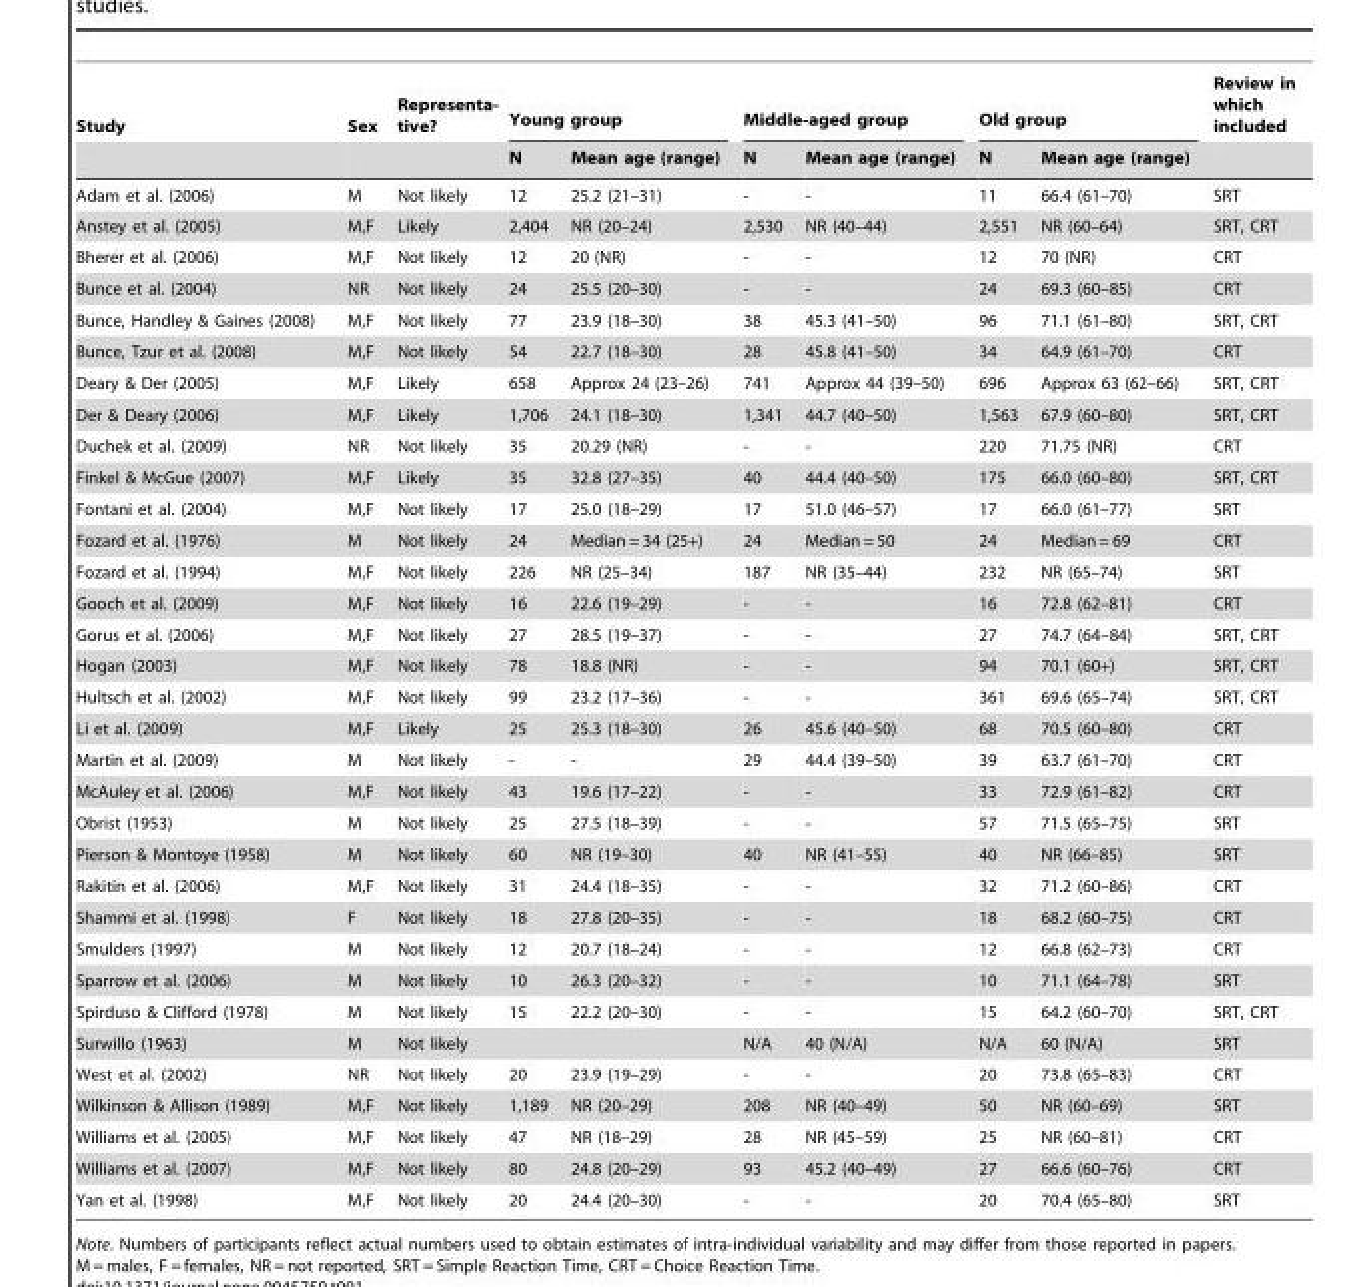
<table><thead><tr><td rowspan="2">Study</td><td rowspan="2">Sex</td><td rowspan="2">Representa- tive?</td><td colspan="2">Young group</td><td colspan="2">Middle-aged group</td><td colspan="2">Old group</td><td rowspan="2">Review in which included</td></tr><tr><td>N</td><td>Mean age (range)</td><td>N</td><td>Mean age (range)</td><td>N</td><td>Mean age (range)</td></tr></thead><tbody><tr><td>Adam et al. (2006)</td><td>M</td><td>Not likely</td><td>12</td><td>25.2 (21–31)</td><td>-</td><td>-</td><td>11</td><td>66.4 (61–70)</td><td>SRT</td></tr><tr><td>Anstey et al. (2005)</td><td>M,F</td><td>Likely</td><td>2,404</td><td>NR (20–24)</td><td>2,530</td><td>NR (40–44)</td><td>2,551</td><td>NR (60–64)</td><td>SRT, CRT</td></tr><tr><td>Bherer et al. (2006)</td><td>M,F</td><td>Not likely</td><td>12</td><td>20 (NR)</td><td>-</td><td>-</td><td>12</td><td>70 (NR)</td><td>CRT</td></tr><tr><td>Bunce et al. (2004)</td><td>NR</td><td>Not likely</td><td>24</td><td>25.5 (20–30)</td><td>-</td><td>-</td><td>24</td><td>69.3 (60–85)</td><td>CRT</td></tr><tr><td>Bunce, Handley &amp; Gaines (2008)</td><td>M,F</td><td>Not likely</td><td>77</td><td>23.9 (18–30)</td><td>38</td><td>45.3 (41–50)</td><td>96</td><td>71.1 (61–80)</td><td>SRT, CRT</td></tr><tr><td>Bunce, Tzur et al. (2008)</td><td>M,F</td><td>Not likely</td><td>54</td><td>22.7 (18–30)</td><td>28</td><td>45.8 (41–50)</td><td>34</td><td>64.9 (61–70)</td><td>CRT</td></tr><tr><td>Deary &amp; Der (2005)</td><td>M,F</td><td>Likely</td><td>658</td><td>Approx 24 (23–26)</td><td>741</td><td>Approx 44 (39–50)</td><td>696</td><td>Approx 63 (62–66)</td><td>SRT, CRT</td></tr><tr><td>Der &amp; Deary (2006)</td><td>M,F</td><td>Likely</td><td>1,706</td><td>24.1 (18–30)</td><td>1,341</td><td>44.7 (40–50)</td><td>1,563</td><td>67.9 (60–80)</td><td>SRT, CRT</td></tr><tr><td>Duchek et al. (2009)</td><td>NR</td><td>Not likely</td><td>35</td><td>20.29 (NR)</td><td>-</td><td>-</td><td>220</td><td>71.75 (NR)</td><td>CRT</td></tr><tr><td>Finkel &amp; McGue (2007)</td><td>M,F</td><td>Likely</td><td>35</td><td>32.8 (27–35)</td><td>40</td><td>44.4 (40–50)</td><td>175</td><td>66.0 (60–80)</td><td>SRT, CRT</td></tr><tr><td>Fontani et al. (2004)</td><td>M,F</td><td>Not likely</td><td>17</td><td>25.0 (18–29)</td><td>17</td><td>51.0 (46–57)</td><td>17</td><td>66.0 (61–77)</td><td>SRT</td></tr><tr><td>Fozard et al. (1976)</td><td>M</td><td>Not likely</td><td>24</td><td>Median = 34 (25+)</td><td>24</td><td>Median = 50</td><td>24</td><td>Median = 69</td><td>CRT</td></tr><tr><td>Fozard et al. (1994)</td><td>M,F</td><td>Not likely</td><td>226</td><td>NR (25–34)</td><td>187</td><td>NR (35–44)</td><td>232</td><td>NR (65–74)</td><td>SRT</td></tr><tr><td>Gooch et al. (2009)</td><td>M,F</td><td>Not likely</td><td>16</td><td>22.6 (19–29)</td><td>-</td><td>-</td><td>16</td><td>72.8 (62–81)</td><td>CRT</td></tr><tr><td>Gorus et al. (2006)</td><td>M,F</td><td>Not likely</td><td>27</td><td>28.5 (19–37)</td><td>-</td><td>-</td><td>27</td><td>74.7 (64–84)</td><td>SRT, CRT</td></tr><tr><td>Hogan (2003)</td><td>M,F</td><td>Not likely</td><td>78</td><td>18.8 (NR)</td><td>-</td><td>-</td><td>94</td><td>70.1 (60+)</td><td>SRT, CRT</td></tr><tr><td>Hultsch et al. (2002)</td><td>M,F</td><td>Not likely</td><td>99</td><td>23.2 (17–36)</td><td>-</td><td>-</td><td>361</td><td>69.6 (65–74)</td><td>SRT, CRT</td></tr><tr><td>Li et al. (2009)</td><td>M,F</td><td>Likely</td><td>25</td><td>25.3 (18–30)</td><td>26</td><td>45.6 (40–50)</td><td>68</td><td>70.5 (60–80)</td><td>CRT</td></tr><tr><td>Martin et al. (2009)</td><td>M</td><td>Not likely</td><td>-</td><td>-</td><td>29</td><td>44.4 (39–50)</td><td>39</td><td>63.7 (61–70)</td><td>CRT</td></tr><tr><td>McAuley et al. (2006)</td><td>M,F</td><td>Not likely</td><td>43</td><td>19.6 (17–22)</td><td>-</td><td>-</td><td>33</td><td>72.9 (61–82)</td><td>CRT</td></tr><tr><td>Obrist (1953)</td><td>M</td><td>Not likely</td><td>25</td><td>27.5 (18–39)</td><td>-</td><td>-</td><td>57</td><td>71.5 (65–75)</td><td>SRT</td></tr><tr><td>Pierson &amp; Montoye (1958)</td><td>M</td><td>Not likely</td><td>60</td><td>NR (19–30)</td><td>40</td><td>NR (41–55)</td><td>40</td><td>NR (66–85)</td><td>SRT</td></tr><tr><td>Rakitin et al. (2006)</td><td>M,F</td><td>Not likely</td><td>31</td><td>24.4 (18–35)</td><td>-</td><td>-</td><td>32</td><td>71.2 (60–86)</td><td>CRT</td></tr><tr><td>Shammi et al. (1998)</td><td>F</td><td>Not likely</td><td>18</td><td>27.8 (20–35)</td><td>-</td><td>-</td><td>18</td><td>68.2 (60–75)</td><td>CRT</td></tr><tr><td>Smulders (1997)</td><td>M</td><td>Not likely</td><td>12</td><td>20.7 (18–24)</td><td>-</td><td>-</td><td>12</td><td>66.8 (62–73)</td><td>CRT</td></tr><tr><td>Sparrow et al. (2006)</td><td>M</td><td>Not likely</td><td>10</td><td>26.3 (20–32)</td><td>-</td><td>-</td><td>10</td><td>71.1 (64–78)</td><td>SRT</td></tr><tr><td>Spirduso &amp; Clifford (1978)</td><td>M</td><td>Not likely</td><td>15</td><td>22.2 (20–30)</td><td>-</td><td>-</td><td>15</td><td>64.2 (60–70)</td><td>SRT, CRT</td></tr><tr><td>Surwillo (1963)</td><td>M</td><td>Not likely</td><td></td><td></td><td>N/A</td><td>40 (N/A)</td><td>N/A</td><td>60 (N/A)</td><td>SRT</td></tr><tr><td>West et al. (2002)</td><td>NR</td><td>Not likely</td><td>20</td><td>23.9 (19–29)</td><td>-</td><td>-</td><td>20</td><td>73.8 (65–83)</td><td>CRT</td></tr><tr><td>Wilkinson &amp; Allison (1989)</td><td>M,F</td><td>Not likely</td><td>1,189</td><td>NR (20–29)</td><td>208</td><td>NR (40–49)</td><td>50</td><td>NR (60–69)</td><td>SRT</td></tr><tr><td>Williams et al. (2005)</td><td>M,F</td><td>Not likely</td><td>47</td><td>NR (18–29)</td><td>28</td><td>NR (45–59)</td><td>25</td><td>NR (60–81)</td><td>CRT</td></tr><tr><td>Williams et al. (2007)</td><td>M,F</td><td>Not likely</td><td>80</td><td>24.8 (20–29)</td><td>93</td><td>45.2 (40–49)</td><td>27</td><td>66.6 (60–76)</td><td>CRT</td></tr><tr><td>Yan et al. (1998)</td><td>M,F</td><td>Not likely</td><td>20</td><td>24.4 (20–30)</td><td>-</td><td>-</td><td>20</td><td>70.4 (65–80)</td><td>SRT</td></tr></tbody></table>